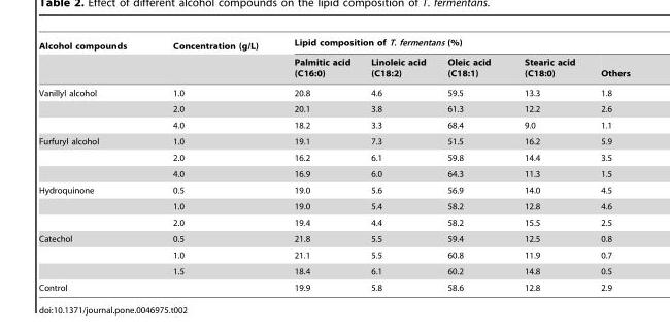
<table><thead><tr><td rowspan="2">Alcohol compounds</td><td rowspan="2">Concentration (g/L)</td><td colspan="5">Lipid composition of T. fermentans (%)</td></tr><tr><td>Palmitic acid (C16:0)</td><td>Linoleic acid (C18:2)</td><td>Oleic acid (C18:1)</td><td>Stearic acid (C18:0)</td><td>Others</td></tr></thead><tbody><tr><td rowspan="3">Vanillyl alcohol</td><td>1.0</td><td>20.8</td><td>4.6</td><td>59.5</td><td>13.3</td><td>1.8</td></tr><tr><td>2.0</td><td>20.1</td><td>3.8</td><td>61.3</td><td>12.2</td><td>2.6</td></tr><tr><td>4.0</td><td>18.2</td><td>3.3</td><td>68.4</td><td>9.0</td><td>1.1</td></tr><tr><td rowspan="3">Furfuryl alcohol</td><td>1.0</td><td>19.1</td><td>7.3</td><td>51.5</td><td>16.2</td><td>5.9</td></tr><tr><td>2.0</td><td>16.2</td><td>6.1</td><td>59.8</td><td>14.4</td><td>3.5</td></tr><tr><td>4.0</td><td>16.9</td><td>6.0</td><td>64.3</td><td>11.3</td><td>1.5</td></tr><tr><td rowspan="3">Hydroquinone</td><td>0.5</td><td>19.0</td><td>5.6</td><td>56.9</td><td>14.0</td><td>4.5</td></tr><tr><td>1.0</td><td>19.0</td><td>5.4</td><td>58.2</td><td>12.8</td><td>4.6</td></tr><tr><td>2.0</td><td>19.4</td><td>4.4</td><td>58.2</td><td>15.5</td><td>2.5</td></tr><tr><td rowspan="3">Catechol</td><td>0.5</td><td>21.8</td><td>5.5</td><td>59.4</td><td>12.5</td><td>0.8</td></tr><tr><td>1.0</td><td>21.1</td><td>5.5</td><td>60.8</td><td>11.9</td><td>0.7</td></tr><tr><td>1.5</td><td>18.4</td><td>6.1</td><td>60.2</td><td>14.8</td><td>0.5</td></tr><tr><td>Control</td><td></td><td>19.9</td><td>5.8</td><td>58.6</td><td>12.8</td><td>2.9</td></tr></tbody></table>